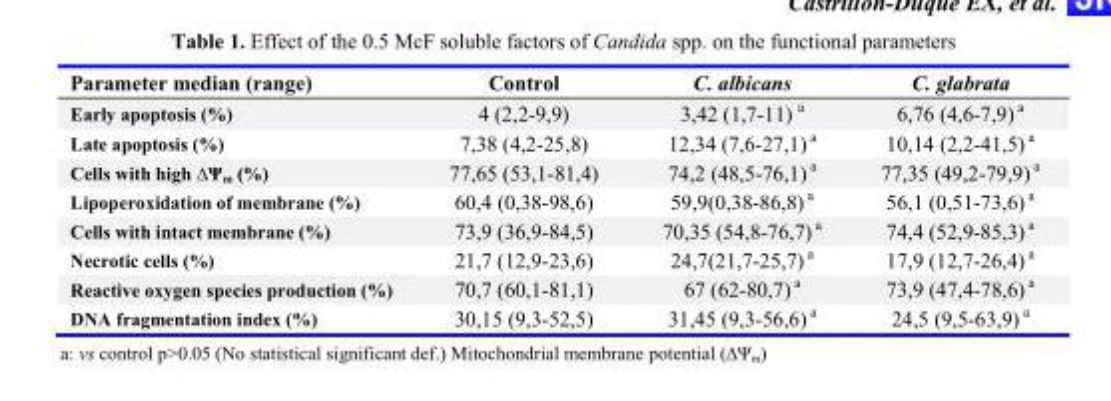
<table><thead><tr><td>Parameter median (range)</td><td>Control</td><td>C. albicans</td><td>C. glabrata</td></tr></thead><tbody><tr><td>Early apoptosis (%)</td><td>4 (2,2-9,9)</td><td>3,42 (1,7-11) <sup>a</sup></td><td>6,76 (4,6-7,9) <sup>a</sup></td></tr><tr><td>Late apoptosis (%)</td><td>7,38 (4,2-25,8)</td><td>12,34 (7,6-27,1) <sup>a</sup></td><td>10,14 (2,2-41,5) <sup>a</sup></td></tr><tr><td>Cells with high ∆Ψm (%)</td><td>77,65 (53,1-81,4)</td><td>74,2 (48,5-76,1) <sup>a</sup></td><td>77,35 (49,2-79,9) <sup>a</sup></td></tr><tr><td>Lipoperoxidation of membrane (%)</td><td>60,4 (0,38-98,6)</td><td>59,9(0,38-86,8) <sup>a</sup></td><td>56,1 (0,51-73,6) <sup>a</sup></td></tr><tr><td>Cells with intact membrane (%)</td><td>73,9 (36,9-84,5)</td><td>70,35 (54,8-76,7) <sup>a</sup></td><td>74,4 (52,9-85,3) <sup>a</sup></td></tr><tr><td>Necrotic cells (%)</td><td>21,7 (12,9-23,6)</td><td>24,7(21,7-25,7) <sup>a</sup></td><td>17,9 (12,7-26,4) <sup>a</sup></td></tr><tr><td>Reactive oxygen species production (%)</td><td>70,7 (60,1-81,1)</td><td>67 (62-80,7) <sup>a</sup></td><td>73,9 (47,4-78,6) <sup>a</sup></td></tr><tr><td>DNA fragmentation index (%)</td><td>30,15 (9,3-52,5)</td><td>31,45 (9,3-56,6) <sup>a</sup></td><td>24,5 (9,5-63,9) <sup>a</sup></td></tr></tbody></table>